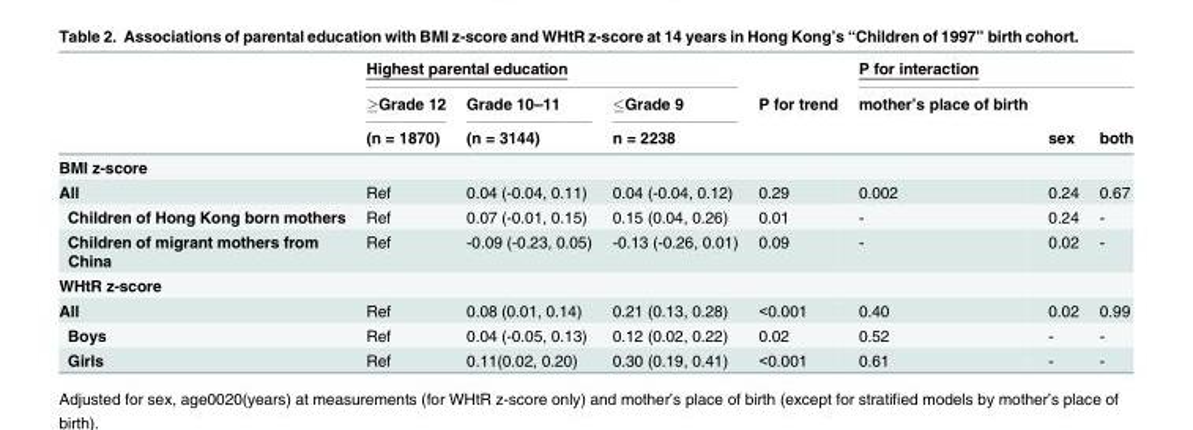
<table><thead><tr><td rowspan="3"></td><td colspan="3">Highest parental education</td><td rowspan="3">P for trend</td><td colspan="3">P for interaction</td></tr><tr><td rowspan="2">≥Grade 12 (n = 1870)</td><td rowspan="2">Grade 10–11 (n = 3144)</td><td rowspan="2">≤Grade 9 n = 2238</td><td rowspan="2">mother’s place of birth</td><td rowspan="2">sex</td><td rowspan="2">both</td></tr><tr></tr></thead><tbody><tr><td colspan="8">BMI z-score</td></tr><tr><td>All</td><td>Ref</td><td>0.04 (-0.04, 0.11)</td><td>0.04 (-0.04, 0.12)</td><td>0.29</td><td>0.002</td><td>0.24</td><td>0.67</td></tr><tr><td>Children of Hong Kong born mothers</td><td>Ref</td><td>0.07 (-0.01, 0.15)</td><td>0.15 (0.04, 0.26)</td><td>0.01</td><td>-</td><td>0.24</td><td>-</td></tr><tr><td>Children of migrant mothers from China</td><td>Ref</td><td>-0.09 (-0.23, 0.05)</td><td>-0.13 (-0.26, 0.01)</td><td>0.09</td><td>-</td><td>0.02</td><td>-</td></tr><tr><td colspan="8">WHtR z-score</td></tr><tr><td>All</td><td>Ref</td><td>0.08 (0.01, 0.14)</td><td>0.21 (0.13, 0.28)</td><td>&lt;0.001</td><td>0.40</td><td>0.02</td><td>0.99</td></tr><tr><td>Boys</td><td>Ref</td><td>0.04 (-0.05, 0.13)</td><td>0.12 (0.02, 0.22)</td><td>0.02</td><td>0.52</td><td>-</td><td>-</td></tr><tr><td>Girls</td><td>Ref</td><td>0.11(0.02, 0.20)</td><td>0.30 (0.19, 0.41)</td><td>&lt;0.001</td><td>0.61</td><td>-</td><td>-</td></tr></tbody></table>